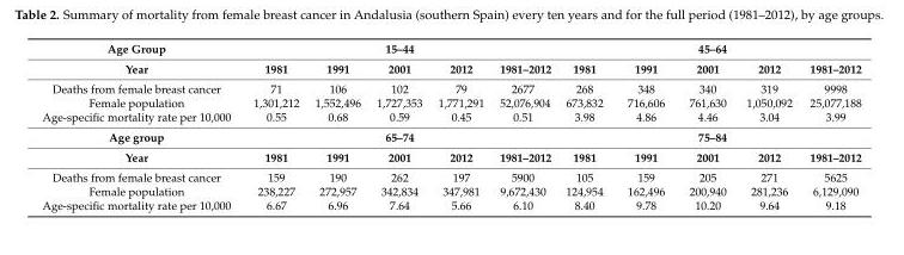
<table><tbody><tr><td>Age Group</td><td colspan="5">15–44</td><td colspan="5">45–64</td></tr><tr><td>Year</td><td>1981</td><td>1991</td><td>2001</td><td>2012</td><td>1981–2012</td><td>1981</td><td>1991</td><td>2001</td><td>2012</td><td>1981–2012</td></tr><tr><td>Deaths from female breast cancer</td><td>71</td><td>106</td><td>102</td><td>79</td><td>2677</td><td>268</td><td>348</td><td>340</td><td>319</td><td>9998</td></tr><tr><td>Female population</td><td>1,301,212</td><td>1,552,496</td><td>1,727,353</td><td>1,771,291</td><td>52,076,904</td><td>673,832</td><td>716,606</td><td>761,630</td><td>1,050,092</td><td>25,077,188</td></tr><tr><td>Age-specific mortality rate per 10,000</td><td>0.55</td><td>0.68</td><td>0.59</td><td>0.45</td><td>0.51</td><td>3.98</td><td>4.86</td><td>4.46</td><td>3.04</td><td>3.99</td></tr><tr><td>Age group</td><td colspan="5">65–74</td><td colspan="5">75–84</td></tr><tr><td>Year</td><td>1981</td><td>1991</td><td>2001</td><td>2012</td><td>1981–2012</td><td>1981</td><td>1991</td><td>2001</td><td>2012</td><td>1981–2012</td></tr><tr><td>Deaths from female breast cancer</td><td>159</td><td>190</td><td>262</td><td>197</td><td>5900</td><td>105</td><td>159</td><td>205</td><td>271</td><td>5625</td></tr><tr><td>Female population</td><td>238,227</td><td>272,957</td><td>342,834</td><td>347,981</td><td>9,672,430</td><td>124,954</td><td>162,496</td><td>200,940</td><td>281,236</td><td>6,129,090</td></tr><tr><td>Age-specific mortality rate per 10,000</td><td>6.67</td><td>6.96</td><td>7.64</td><td>5.66</td><td>6.10</td><td>8.40</td><td>9.78</td><td>10.20</td><td>9.64</td><td>9.18</td></tr></tbody></table>